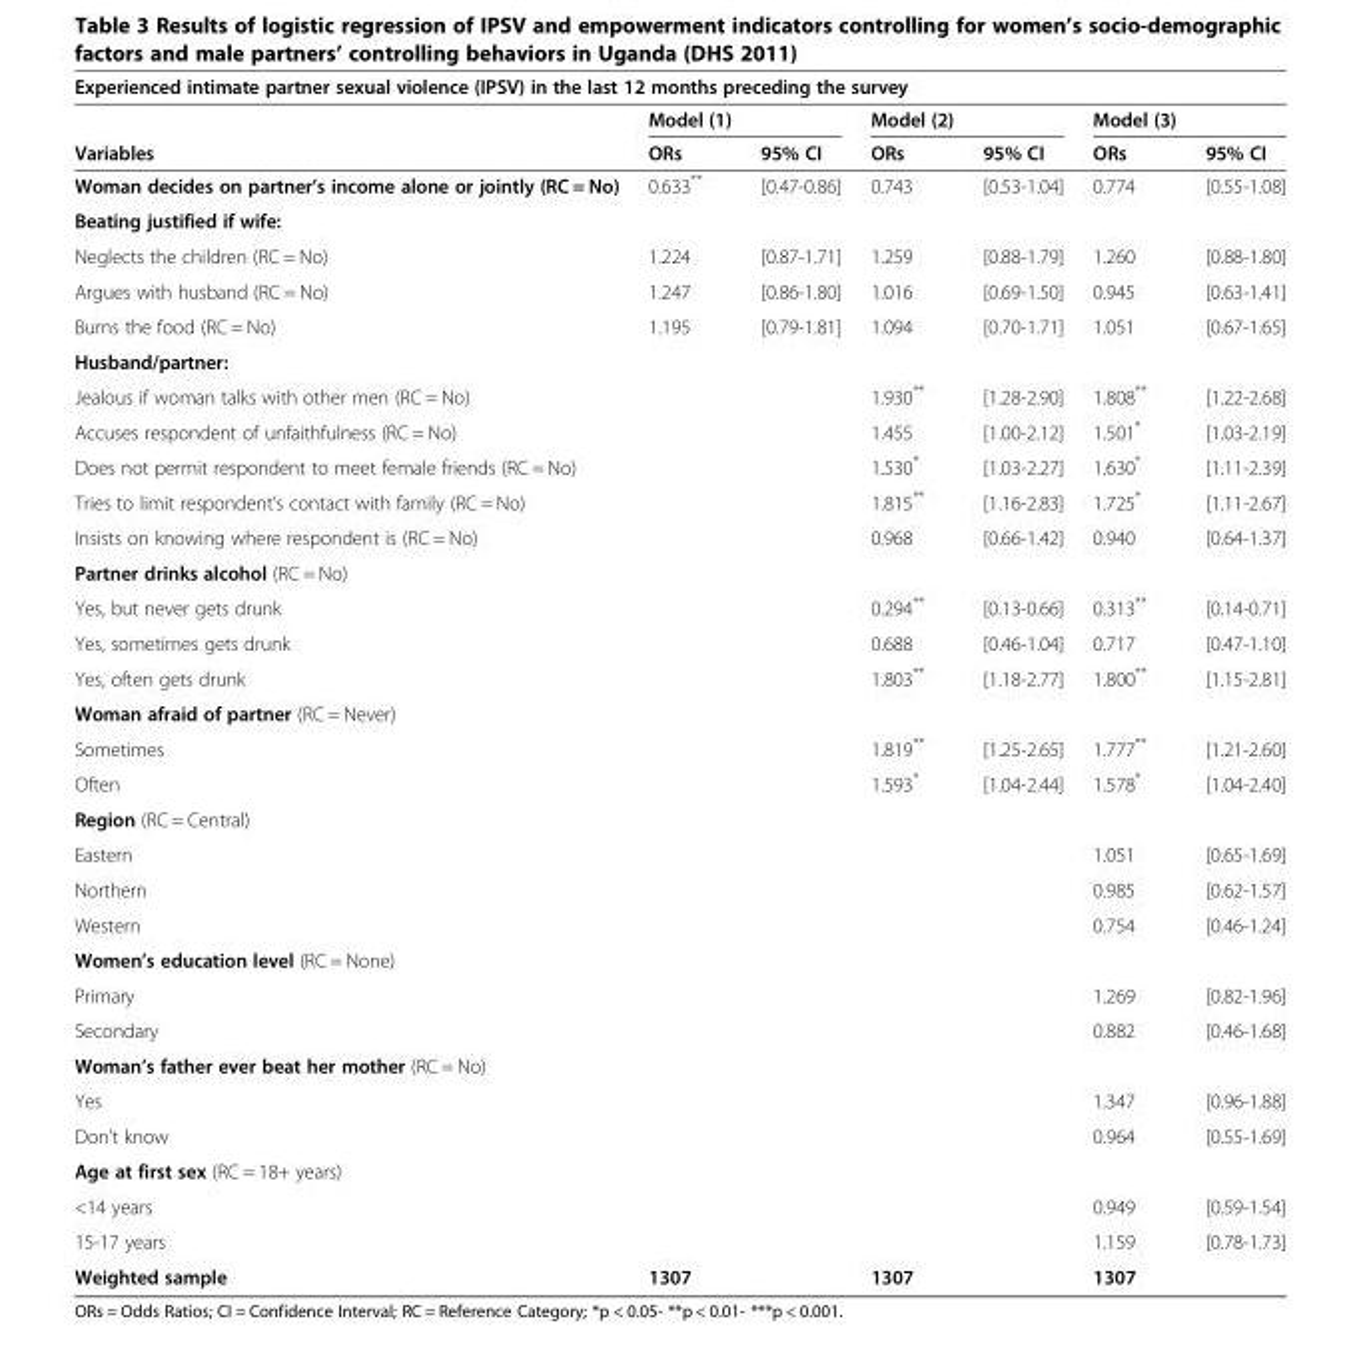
<table><thead><tr><td colspan="7">Experienced intimate partner sexual violence (IPSV) in the last 12 months preceding the survey</td></tr><tr><td rowspan="2">Variables</td><td rowspan="2">Model (1) ORs</td><td rowspan="2">95% CI</td><td rowspan="2">Model (2) ORs</td><td rowspan="2">95% CI</td><td rowspan="2">Model (3) ORs</td><td rowspan="2">95% CI</td></tr><tr></tr></thead><tbody><tr><td>Woman decides on partner’s income alone or jointly (RC = No)</td><td>0.633**</td><td>[0.47-0.86]</td><td>0.743</td><td>[0.53-1.04]</td><td>0.774</td><td>[0.55-1.08]</td></tr><tr><td colspan="7">Beating justified if wife:</td></tr><tr><td>Neglects the children (RC = No)</td><td>1.224</td><td>[0.87-1.71]</td><td>1.259</td><td>[0.88-1.79]</td><td>1.260</td><td>[0.88-1.80]</td></tr><tr><td>Argues with husband (RC = No)</td><td>1.247</td><td>[0.86-1.80]</td><td>1.016</td><td>[0.69-1.50]</td><td>0.945</td><td>[0.63-1.41]</td></tr><tr><td>Burns the food (RC = No)</td><td>1.195</td><td>[0.79-1.81]</td><td>1.094</td><td>[0.70-1.71]</td><td>1.051</td><td>[0.67-1.65]</td></tr><tr><td colspan="7">Husband/partner:</td></tr><tr><td>Jealous if woman talks with other men (RC = No)</td><td></td><td></td><td>1.930**</td><td>[1.28-2.90]</td><td>1.808**</td><td>[1.22-2.68]</td></tr><tr><td>Accuses respondent of unfaithfulness (RC = No)</td><td></td><td></td><td>1.455</td><td>[1.00-2.12]</td><td>1.501*</td><td>[1.03-2.19]</td></tr><tr><td>Does not permit respondent to meet female friends (RC = No)</td><td></td><td></td><td>1.530*</td><td>[1.03-2.27]</td><td>1.630*</td><td>[1.11-2.39]</td></tr><tr><td>Tries to limit respondent’s contact with family (RC = No)</td><td></td><td></td><td>1.815**</td><td>[1.16-2.83]</td><td>1.725*</td><td>[1.11-2.67]</td></tr><tr><td>Insists on knowing where respondent is (RC = No)</td><td></td><td></td><td>0.968</td><td>[0.66-1.42]</td><td>0.940</td><td>[0.64-1.37]</td></tr><tr><td colspan="7">Partner drinks alcohol (RC = No)</td></tr><tr><td>Yes, but never gets drunk</td><td></td><td></td><td>0.294**</td><td>[0.13-0.66]</td><td>0.313**</td><td>[0.14-0.71]</td></tr><tr><td>Yes, sometimes gets drunk</td><td></td><td></td><td>0.688</td><td>[0.46-1.04]</td><td>0.717</td><td>[0.47-1.10]</td></tr><tr><td>Yes, often gets drunk</td><td></td><td></td><td>1.803**</td><td>[1.18-2.77]</td><td>1.800**</td><td>[1.15-2.81]</td></tr><tr><td colspan="7">Woman afraid of partner (RC = Never)</td></tr><tr><td>Sometimes</td><td></td><td></td><td>1.819**</td><td>[1.25-2.65]</td><td>1.777**</td><td>[1.21-2.60]</td></tr><tr><td>Often</td><td></td><td></td><td>1.593*</td><td>[1.04-2.44]</td><td>1.578*</td><td>[1.04-2.40]</td></tr><tr><td colspan="7">Region (RC = Central)</td></tr><tr><td>Eastern</td><td></td><td></td><td></td><td></td><td>1.051</td><td>[0.65-1.69]</td></tr><tr><td>Northern</td><td></td><td></td><td></td><td></td><td>0.985</td><td>[0.62-1.57]</td></tr><tr><td>Western</td><td></td><td></td><td></td><td></td><td>0.754</td><td>[0.46-1.24]</td></tr><tr><td colspan="7">Women’s education level (RC = None)</td></tr><tr><td>Primary</td><td></td><td></td><td></td><td></td><td>1.269</td><td>[0.82-1.96]</td></tr><tr><td>Secondary</td><td></td><td></td><td></td><td></td><td>0.882</td><td>[0.46-1.68]</td></tr><tr><td colspan="7">Woman’s father ever beat her mother (RC = No)</td></tr><tr><td>Yes</td><td></td><td></td><td></td><td></td><td>1.347</td><td>[0.96-1.88]</td></tr><tr><td>Don’t know</td><td></td><td></td><td></td><td></td><td>0.964</td><td>[0.55-1.69]</td></tr><tr><td colspan="7">Age at first sex (RC = 18+ years)</td></tr><tr><td>&lt;14 years</td><td></td><td></td><td></td><td></td><td>0.949</td><td>[0.59-1.54]</td></tr><tr><td>15-17 years</td><td></td><td></td><td></td><td></td><td>1.159</td><td>[0.78-1.73]</td></tr><tr><td>Weighted sample</td><td>1307</td><td></td><td>1307</td><td></td><td>1307</td><td></td></tr></tbody></table>